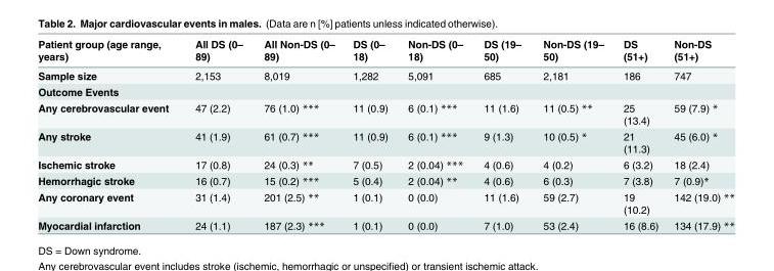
<table><thead><tr><td>Patient group (age range, years)</td><td>All DS (0– 89)</td><td>All Non-DS (0– 89)</td><td>DS (0– 18)</td><td>Non-DS (0– 18)</td><td>DS (19– 50)</td><td>Non-DS (19– 50)</td><td>DS (51+)</td><td>Non-DS (51+)</td></tr></thead><tbody><tr><td>Sample size</td><td>2,153</td><td>8,019</td><td>1,282</td><td>5,091</td><td>685</td><td>2,181</td><td>186</td><td>747</td></tr><tr><td colspan="9">Outcome Events</td></tr><tr><td>Any cerebrovascular event</td><td>47 (2.2)</td><td>76 (1.0) ***</td><td>11 (0.9)</td><td>6 (0.1) ***</td><td>11 (1.6)</td><td>11 (0.5) **</td><td>25 (13.4)</td><td>59 (7.9) *</td></tr><tr><td>Any stroke</td><td>41 (1.9)</td><td>61 (0.7) ***</td><td>11 (0.9)</td><td>6 (0.1) ***</td><td>9 (1.3)</td><td>10 (0.5) *</td><td>21 (11.3)</td><td>45 (6.0) *</td></tr><tr><td>Ischemic stroke</td><td>17 (0.8)</td><td>24 (0.3) **</td><td>7 (0.5)</td><td>2 (0.04) ***</td><td>4 (0.6)</td><td>4 (0.2)</td><td>6 (3.2)</td><td>18 (2.4)</td></tr><tr><td>Hemorrhagic stroke</td><td>16 (0.7)</td><td>15 (0.2) ***</td><td>5 (0.4)</td><td>2 (0.04) **</td><td>4 (0.6)</td><td>6 (0.3)</td><td>7 (3.8)</td><td>7 (0.9)*</td></tr><tr><td>Any coronary event</td><td>31 (1.4)</td><td>201 (2.5) **</td><td>1 (0.1)</td><td>0 (0.0)</td><td>11 (1.6)</td><td>59 (2.7)</td><td>19 (10.2)</td><td>142 (19.0) **</td></tr><tr><td>Myocardial infarction</td><td>24 (1.1)</td><td>187 (2.3) ***</td><td>1 (0.1)</td><td>0 (0.0)</td><td>7 (1.0)</td><td>53 (2.4)</td><td>16 (8.6)</td><td>134 (17.9) **</td></tr></tbody></table>